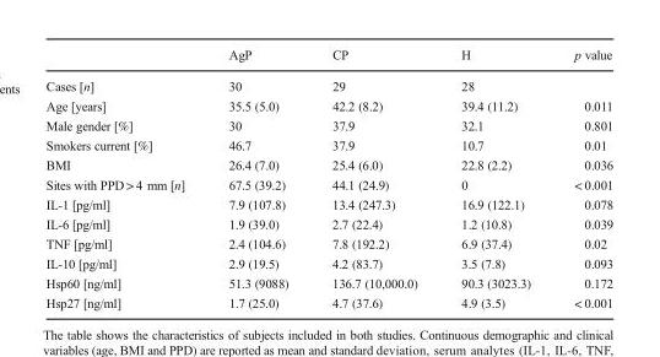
<table><thead><tr><td></td><td>AgP</td><td>CP</td><td>H</td><td>p value</td></tr></thead><tbody><tr><td>Cases [n]</td><td>30</td><td>29</td><td>28</td><td></td></tr><tr><td>Age [years]</td><td>35.5 (5.0)</td><td>42.2 (8.2)</td><td>39.4 (11.2)</td><td>0.011</td></tr><tr><td>Male gender [%]</td><td>30</td><td>37.9</td><td>32.1</td><td>0.801</td></tr><tr><td>Smokers current [%]</td><td>46.7</td><td>37.9</td><td>10.7</td><td>0.01</td></tr><tr><td>BMI</td><td>26.4 (7.0)</td><td>25.4 (6.0)</td><td>22.8 (2.2)</td><td>0.036</td></tr><tr><td>Sites with PPD &gt; 4 mm [n]</td><td>67.5 (39.2)</td><td>44.1 (24.9)</td><td>0</td><td>&lt; 0.001</td></tr><tr><td>IL-1 [pg/ml]</td><td>7.9 (107.8)</td><td>13.4 (247.3)</td><td>16.9 (122.1)</td><td>0.078</td></tr><tr><td>IL-6 [pg/ml]</td><td>1.9 (39.0)</td><td>2.7 (22.4)</td><td>1.2 (10.8)</td><td>0.039</td></tr><tr><td>TNF [pg/ml]</td><td>2.4 (104.6)</td><td>7.8 (192.2)</td><td>6.9 (37.4)</td><td>0.02</td></tr><tr><td>IL-10 [pg/ml]</td><td>2.9 (19.5)</td><td>4.2 (83.7)</td><td>3.5 (7.8)</td><td>0.093</td></tr><tr><td>Hsp60 [ng/ml]</td><td>51.3 (9088)</td><td>136.7 (10,000.0)</td><td>90.3 (3023.3)</td><td>0.172</td></tr><tr><td>Hsp27 [ng/ml]</td><td>1.7 (25.0)</td><td>4.7 (37.6)</td><td>4.9 (3.5)</td><td>&lt; 0.001</td></tr></tbody></table>